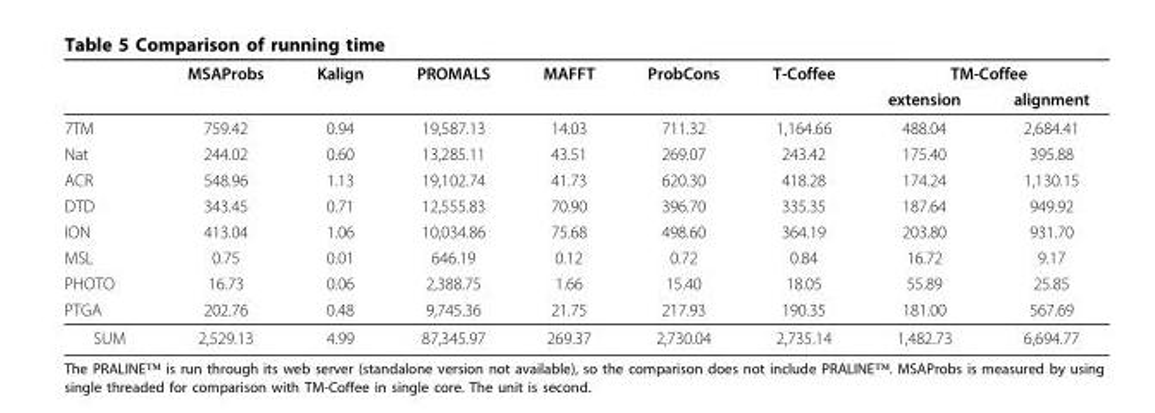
<table><thead><tr><td rowspan="2"></td><td rowspan="2">MSAProbs</td><td rowspan="2">Kalign</td><td rowspan="2">PROMALS</td><td rowspan="2">MAFFT</td><td rowspan="2">ProbCons</td><td rowspan="2">T-Coffee</td><td colspan="2">TM-Coffee</td></tr><tr><td>extension</td><td>alignment</td></tr></thead><tbody><tr><td>7TM</td><td>759.42</td><td>0.94</td><td>19,587.13</td><td>14.03</td><td>711.32</td><td>1,164.66</td><td>488.04</td><td>2,684.41</td></tr><tr><td>Nat</td><td>244.02</td><td>0.60</td><td>13,285.11</td><td>43.51</td><td>269.07</td><td>243.42</td><td>175.40</td><td>395.88</td></tr><tr><td>ACR</td><td>548.96</td><td>1.13</td><td>19,102.74</td><td>41.73</td><td>620.30</td><td>418.28</td><td>174.24</td><td>1,130.15</td></tr><tr><td>DTD</td><td>343.45</td><td>0.71</td><td>12,555.83</td><td>70.90</td><td>396.70</td><td>335.35</td><td>187.64</td><td>949.92</td></tr><tr><td>ION</td><td>413.04</td><td>1.06</td><td>10,034.86</td><td>75.68</td><td>498.60</td><td>364.19</td><td>203.80</td><td>931.70</td></tr><tr><td>MSL</td><td>0.75</td><td>0.01</td><td>646.19</td><td>0.12</td><td>0.72</td><td>0.84</td><td>16.72</td><td>9.17</td></tr><tr><td>PHOTO</td><td>16.73</td><td>0.06</td><td>2,388.75</td><td>1.66</td><td>15.40</td><td>18.05</td><td>55.89</td><td>25.85</td></tr><tr><td>PTGA</td><td>202.76</td><td>0.48</td><td>9,745.36</td><td>21.75</td><td>217.93</td><td>190.35</td><td>181.00</td><td>567.69</td></tr><tr><td>SUM</td><td>2,529.13</td><td>4.99</td><td>87,345.97</td><td>269.37</td><td>2,730.04</td><td>2,735.14</td><td>1,482.73</td><td>6,694.77</td></tr></tbody></table>